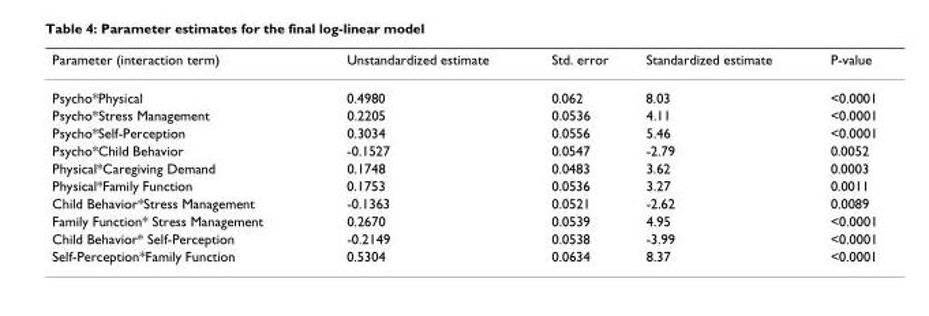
<table><thead><tr><td>Parameter (interaction term)</td><td>Unstandardized estimate</td><td>Std. error</td><td>Standardized estimate</td><td>P-value</td></tr></thead><tbody><tr><td>Psycho*Physical</td><td>0.4980</td><td>0.062</td><td>8.03</td><td>&lt;0.0001</td></tr><tr><td>Psycho*Stress Management</td><td>0.2205</td><td>0.0536</td><td>4.11</td><td>&lt;0.0001</td></tr><tr><td>Psycho*Self-Perception</td><td>0.3034</td><td>0.0556</td><td>5.46</td><td>&lt;0.0001</td></tr><tr><td>Psycho*Child Behavior</td><td>-0.1527</td><td>0.0547</td><td>-2.79</td><td>0.0052</td></tr><tr><td>Physical*Caregiving Demand</td><td>0.1748</td><td>0.0483</td><td>3.62</td><td>0.0003</td></tr><tr><td>Physical*Family Function</td><td>0.1753</td><td>0.0536</td><td>3.27</td><td>0.0011</td></tr><tr><td>Child Behavior*Stress Management</td><td>-0.1363</td><td>0.0521</td><td>-2.62</td><td>0.0089</td></tr><tr><td>Family Function* Stress Management</td><td>0.2670</td><td>0.0539</td><td>4.95</td><td>&lt;0.0001</td></tr><tr><td>Child Behavior* Self-Perception</td><td>-0.2149</td><td>0.0538</td><td>-3.99</td><td>&lt;0.0001</td></tr><tr><td>Self-Perception*Family Function</td><td>0.5304</td><td>0.0634</td><td>8.37</td><td>&lt;0.0001</td></tr></tbody></table>